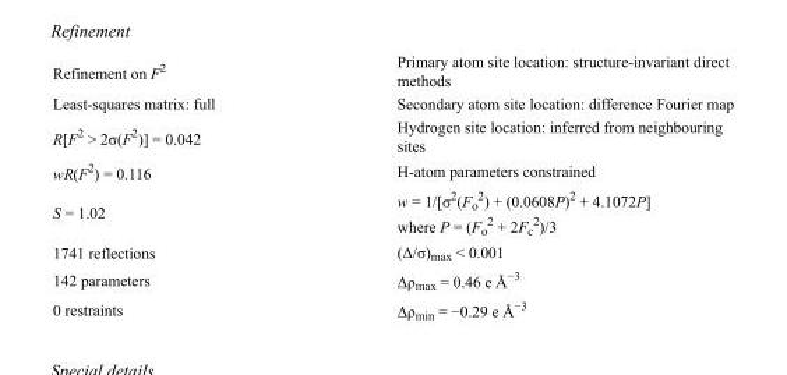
<table><tbody><tr><td>Refinement on F<sup>2</sup></td><td>Primary atom site location: structure-invariant direct methods</td></tr><tr><td>Least-squares matrix: full</td><td>Secondary atom site location: difference Fourier map</td></tr><tr><td>R[F<sup>2</sup> &gt; 2σ(F<sup>2</sup>)] = 0.042</td><td>Hydrogen site location: inferred from neighbouring sites</td></tr><tr><td>wR(F<sup>2</sup>) = 0.116</td><td>H-atom parameters constrained</td></tr><tr><td>S = 1.02</td><td>w = 1/[σ<sup>2</sup>(F<sub>o</sub> <sup>2</sup>) + (0.0608P)<sup>2</sup> + 4.1072P] where P = (F<sub>o</sub> <sup>2</sup> + 2F<sub>c</sub> <sup>2</sup>)/3</td></tr><tr><td>1741 reflections</td><td>(Δ/σ)<sub>max</sub> &lt; 0.001</td></tr><tr><td>142 parameters</td><td>Δρ<sub>max</sub> = 0.46 e Å<sup>−3</sup></td></tr><tr><td>0 restraints</td><td>Δρ<sub>min</sub> = −0.29 e Å<sup>−3</sup></td></tr></tbody></table>